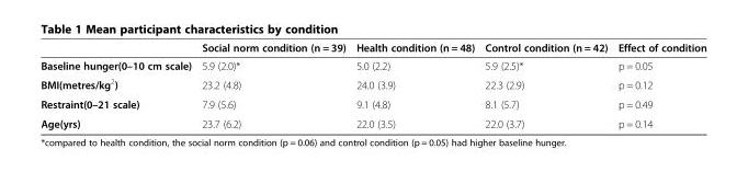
<table><thead><tr><td></td><td>Social norm condition (n = 39)</td><td>Health condition (n = 48)</td><td>Control condition (n = 42)</td><td>Effect of condition</td></tr></thead><tbody><tr><td>Baseline hunger(0–10 cm scale)</td><td>5.9 (2.0)*</td><td>5.0 (2.2)</td><td>5.9 (2.5)*</td><td>p = 0.05</td></tr><tr><td>BMI(metres/kg<sup>2</sup>)</td><td>23.2 (4.8)</td><td>24.0 (3.9)</td><td>22.3 (2.9)</td><td>p = 0.12</td></tr><tr><td>Restraint(0–21 scale)</td><td>7.9 (5.6)</td><td>9.1 (4.8)</td><td>8.1 (5.7)</td><td>p = 0.49</td></tr><tr><td>Age(yrs)</td><td>23.7 (6.2)</td><td>22.0 (3.5)</td><td>22.0 (3.7)</td><td>p = 0.14</td></tr></tbody></table>